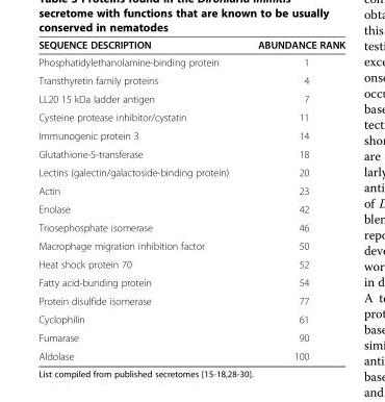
<table><thead><tr><td>SEQUENCE DESCRIPTION</td><td>ABUNDANCE RANK</td></tr></thead><tbody><tr><td>Phosphatidylethanolamine-binding protein</td><td>1</td></tr><tr><td>Transthyretin family proteins</td><td>4</td></tr><tr><td>LL20 15 kDa ladder antigen</td><td>7</td></tr><tr><td>Cysteine protease inhibitor/cystatin</td><td>11</td></tr><tr><td>Immunogenic protein 3</td><td>14</td></tr><tr><td>Glutathione-S-transferase</td><td>18</td></tr><tr><td>Lectins (galectin/galactoside-binding protein)</td><td>20</td></tr><tr><td>Actin</td><td>23</td></tr><tr><td>Enolase</td><td>42</td></tr><tr><td>Triosephosphate isomerase</td><td>46</td></tr><tr><td>Macrophage migration inhibition factor</td><td>50</td></tr><tr><td>Heat shock protein 70</td><td>52</td></tr><tr><td>Fatty acid-bunding protein</td><td>54</td></tr><tr><td>Protein disulfide isomerase</td><td>77</td></tr><tr><td>Cyclophilin</td><td>61</td></tr><tr><td>Fumarase</td><td>90</td></tr><tr><td>Aldolase</td><td>100</td></tr></tbody></table>